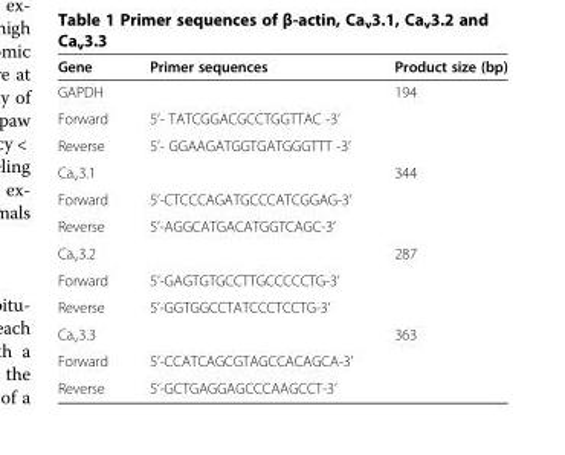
<table><thead><tr><td>Gene</td><td>Primer sequences</td><td>Product size (bp)</td></tr></thead><tbody><tr><td colspan="2">GAPDH</td><td rowspan="3">194</td></tr><tr><td>Forward</td><td>5’- TATCGGACGCCTGGTTAC -3’</td></tr><tr><td>Reverse</td><td>5’- GGAAGATGGTGATGGGTTT -3’</td></tr><tr><td colspan="2">Ca<sub>v</sub>3.1</td><td rowspan="3">344</td></tr><tr><td>Forward</td><td>5’-CTCCCAGATGCCCATCGGAG-3’</td></tr><tr><td>Reverse</td><td>5’-AGGCATGACATGGTCAGC-3’</td></tr><tr><td colspan="2">Ca<sub>v</sub>3.2</td><td rowspan="3">287</td></tr><tr><td>Forward</td><td>5’-GAGTGTGCCTTGCCCCCTG-3’</td></tr><tr><td>Reverse</td><td>5’-GGTGGCCTATCCCTCCTG-3’</td></tr><tr><td colspan="2">Ca<sub>v</sub>3.3</td><td rowspan="3">363</td></tr><tr><td>Forward</td><td>5’-CCATCAGCGTAGCCACAGCA-3’</td></tr><tr><td>Reverse</td><td>5’-GCTGAGGAGCCCAAGCCT-3’</td></tr></tbody></table>